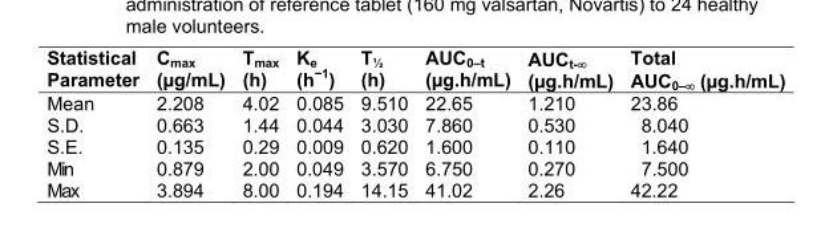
<table><thead><tr><td>Statistical Parameter</td><td>C<sub>max</sub> (µg/mL)</td><td>T<sub>max</sub> (h)</td><td>K<sub>e</sub> (h<sup>−1</sup>)</td><td>T<sub>½</sub> (h)</td><td>AUC<sub>0–t</sub> (µg.h/mL)</td><td>AUC<sub>t-∞</sub> (µg.h/mL)</td><td>Total AUC<sub>0–∞</sub> (µg.h/mL)</td></tr></thead><tbody><tr><td>Mean</td><td>2.208</td><td>4.02</td><td>0.085</td><td>9.510</td><td>22.65</td><td>1.210</td><td>23.86</td></tr><tr><td>S.D.</td><td>0.663</td><td>1.44</td><td>0.044</td><td>3.030</td><td>7.860</td><td>0.530</td><td>8.040</td></tr><tr><td>S.E.</td><td>0.135</td><td>0.29</td><td>0.009</td><td>0.620</td><td>1.600</td><td>0.110</td><td>1.640</td></tr><tr><td>Min</td><td>0.879</td><td>2.00</td><td>0.049</td><td>3.570</td><td>6.750</td><td>0.270</td><td>7.500</td></tr><tr><td>Max</td><td>3.894</td><td>8.00</td><td>0.194</td><td>14.15</td><td>41.02</td><td>2.26</td><td>42.22</td></tr></tbody></table>